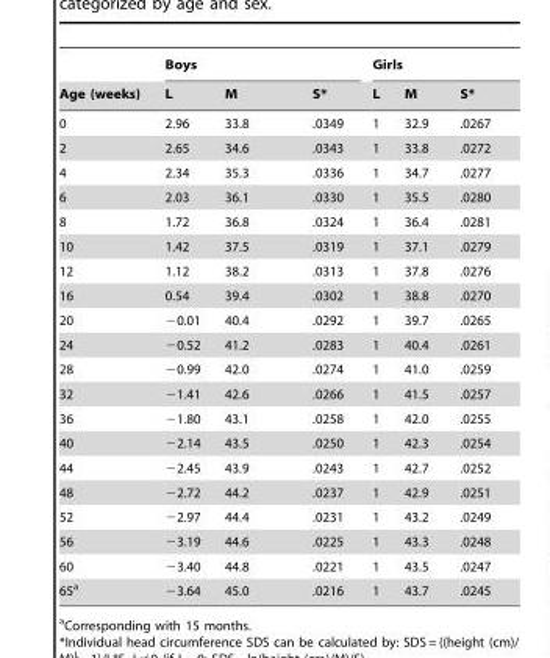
<table><thead><tr><td rowspan="2">Age (weeks)</td><td colspan="3">Boys</td><td colspan="3">Girls</td></tr><tr><td>L</td><td>M</td><td>S*</td><td>L</td><td>M</td><td>S*</td></tr></thead><tbody><tr><td>0</td><td>2.96</td><td>33.8</td><td>.0349</td><td>1</td><td>32.9</td><td>.0267</td></tr><tr><td>2</td><td>2.65</td><td>34.6</td><td>.0343</td><td>1</td><td>33.8</td><td>.0272</td></tr><tr><td>4</td><td>2.34</td><td>35.3</td><td>.0336</td><td>1</td><td>34.7</td><td>.0277</td></tr><tr><td>6</td><td>2.03</td><td>36.1</td><td>.0330</td><td>1</td><td>35.5</td><td>.0280</td></tr><tr><td>8</td><td>1.72</td><td>36.8</td><td>.0324</td><td>1</td><td>36.4</td><td>.0281</td></tr><tr><td>10</td><td>1.42</td><td>37.5</td><td>.0319</td><td>1</td><td>37.1</td><td>.0279</td></tr><tr><td>12</td><td>1.12</td><td>38.2</td><td>.0313</td><td>1</td><td>37.8</td><td>.0276</td></tr><tr><td>16</td><td>0.54</td><td>39.4</td><td>.0302</td><td>1</td><td>38.8</td><td>.0270</td></tr><tr><td>20</td><td>−0.01</td><td>40.4</td><td>.0292</td><td>1</td><td>39.7</td><td>.0265</td></tr><tr><td>24</td><td>−0.52</td><td>41.2</td><td>.0283</td><td>1</td><td>40.4</td><td>.0261</td></tr><tr><td>28</td><td>−0.99</td><td>42.0</td><td>.0274</td><td>1</td><td>41.0</td><td>.0259</td></tr><tr><td>32</td><td>−1.41</td><td>42.6</td><td>.0266</td><td>1</td><td>41.5</td><td>.0257</td></tr><tr><td>36</td><td>−1.80</td><td>43.1</td><td>.0258</td><td>1</td><td>42.0</td><td>.0255</td></tr><tr><td>40</td><td>−2.14</td><td>43.5</td><td>.0250</td><td>1</td><td>42.3</td><td>.0254</td></tr><tr><td>44</td><td>−2.45</td><td>43.9</td><td>.0243</td><td>1</td><td>42.7</td><td>.0252</td></tr><tr><td>48</td><td>−2.72</td><td>44.2</td><td>.0237</td><td>1</td><td>42.9</td><td>.0251</td></tr><tr><td>52</td><td>−2.97</td><td>44.4</td><td>.0231</td><td>1</td><td>43.2</td><td>.0249</td></tr><tr><td>56</td><td>−3.19</td><td>44.6</td><td>.0225</td><td>1</td><td>43.3</td><td>.0248</td></tr><tr><td>60</td><td>−3.40</td><td>44.8</td><td>.0221</td><td>1</td><td>43.5</td><td>.0247</td></tr><tr><td>65<sup>a</sup></td><td>−3.64</td><td>45.0</td><td>.0216</td><td>1</td><td>43.7</td><td>.0245</td></tr></tbody></table>